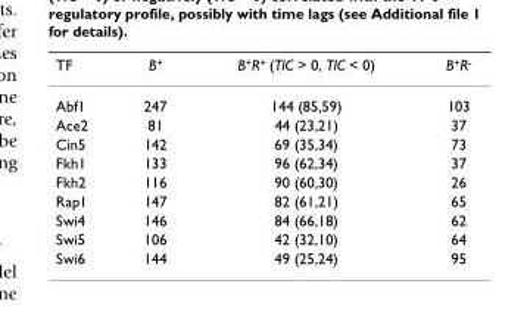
<table><thead><tr><td>TF</td><td>B<sup>+</sup></td><td>B<sup>+</sup>R<sup>+</sup> (TlC &gt; 0, TlC &lt; 0)</td><td>B<sup>+</sup>R<sup>-</sup></td></tr></thead><tbody><tr><td>Abf1</td><td>247</td><td>144 (85,59)</td><td>103</td></tr><tr><td>Ace2</td><td>81</td><td>44 (23,21)</td><td>37</td></tr><tr><td>Cin5</td><td>142</td><td>69 (35,34)</td><td>73</td></tr><tr><td>Fkh1</td><td>133</td><td>96 (62,34)</td><td>37</td></tr><tr><td>Fkh2</td><td>116</td><td>90 (60,30)</td><td>26</td></tr><tr><td>Rap1</td><td>147</td><td>82 (61,21)</td><td>65</td></tr><tr><td>Swi4</td><td>146</td><td>84 (66,18)</td><td>62</td></tr><tr><td>Swi5</td><td>106</td><td>42 (32,10)</td><td>64</td></tr><tr><td>Swi6</td><td>144</td><td>49 (25,24)</td><td>95</td></tr></tbody></table>